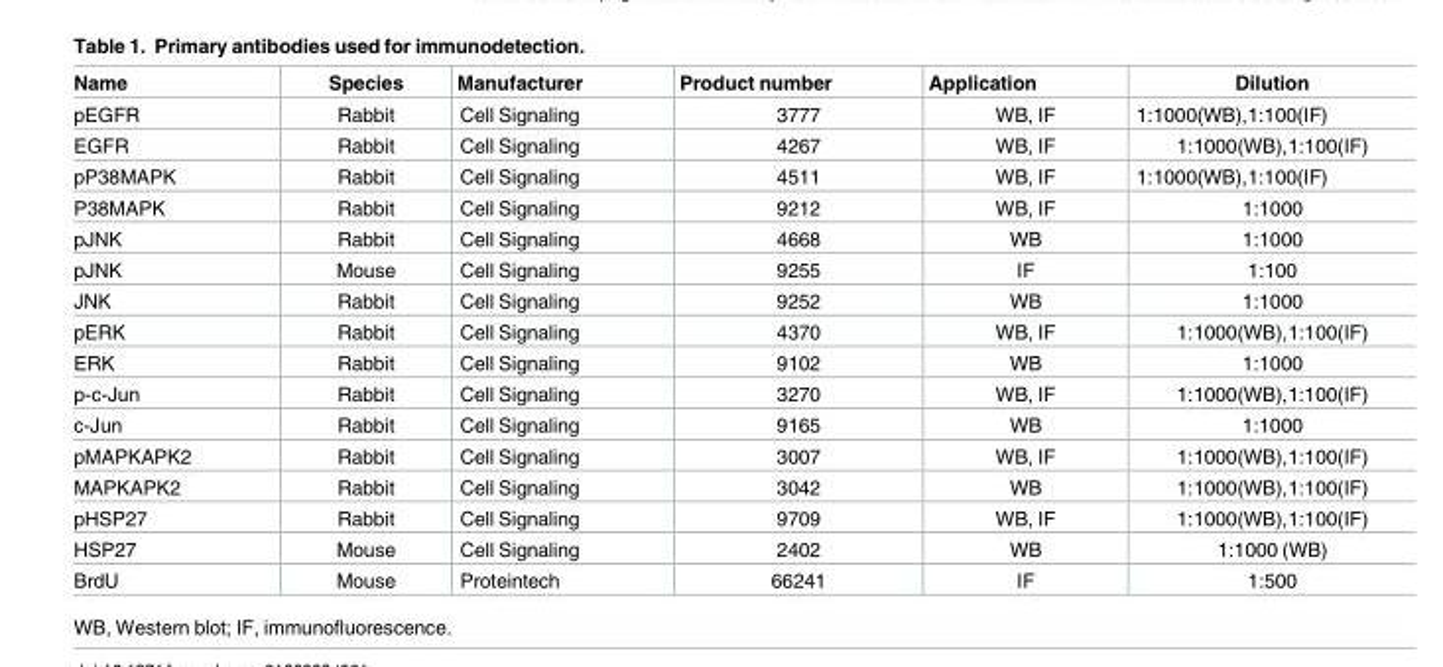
<table><thead><tr><td>Name</td><td>Species</td><td>Manufacturer</td><td>Product number</td><td>Application</td><td>Dilution</td></tr></thead><tbody><tr><td>pEGFR</td><td>Rabbit</td><td>Cell Signaling</td><td>3777</td><td>WB, IF</td><td>1:1000(WB),1:100(IF)</td></tr><tr><td>EGFR</td><td>Rabbit</td><td>Cell Signaling</td><td>4267</td><td>WB, IF</td><td>1:1000(WB),1:100(IF)</td></tr><tr><td>pP38MAPK</td><td>Rabbit</td><td>Cell Signaling</td><td>4511</td><td>WB, IF</td><td>1:1000(WB),1:100(IF)</td></tr><tr><td>P38MAPK</td><td>Rabbit</td><td>Cell Signaling</td><td>9212</td><td>WB, IF</td><td>1:1000</td></tr><tr><td>pJNK</td><td>Rabbit</td><td>Cell Signaling</td><td>4668</td><td>WB</td><td>1:1000</td></tr><tr><td>pJNK</td><td>Mouse</td><td>Cell Signaling</td><td>9255</td><td>IF</td><td>1:100</td></tr><tr><td>JNK</td><td>Rabbit</td><td>Cell Signaling</td><td>9252</td><td>WB</td><td>1:1000</td></tr><tr><td>pERK</td><td>Rabbit</td><td>Cell Signaling</td><td>4370</td><td>WB, IF</td><td>1:1000(WB),1:100(IF)</td></tr><tr><td>ERK</td><td>Rabbit</td><td>Cell Signaling</td><td>9102</td><td>WB</td><td>1:1000</td></tr><tr><td>p-c-Jun</td><td>Rabbit</td><td>Cell Signaling</td><td>3270</td><td>WB, IF</td><td>1:1000(WB),1:100(IF)</td></tr><tr><td>c-Jun</td><td>Rabbit</td><td>Cell Signaling</td><td>9165</td><td>WB</td><td>1:1000</td></tr><tr><td>pMAPKAPK2</td><td>Rabbit</td><td>Cell Signaling</td><td>3007</td><td>WB, IF</td><td>1:1000(WB),1:100(IF)</td></tr><tr><td>MAPKAPK2</td><td>Rabbit</td><td>Cell Signaling</td><td>3042</td><td>WB</td><td>1:1000(WB),1:100(IF)</td></tr><tr><td>pHSP27</td><td>Rabbit</td><td>Cell Signaling</td><td>9709</td><td>WB, IF</td><td>1:1000(WB),1:100(IF)</td></tr><tr><td>HSP27</td><td>Mouse</td><td>Cell Signaling</td><td>2402</td><td>WB</td><td>1:1000 (WB)</td></tr><tr><td>BrdU</td><td>Mouse</td><td>Proteintech</td><td>66241</td><td>IF</td><td>1:500</td></tr></tbody></table>